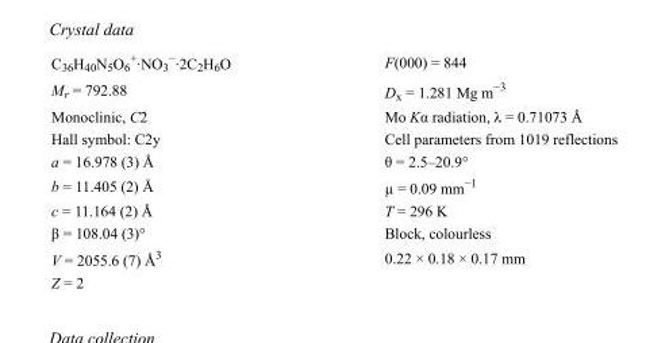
<table><tbody><tr><td>C<sub>36</sub>H<sub>40</sub>N<sub>5</sub>O<sub>6</sub> <sup>+</sup>·NO<sub>3</sub> <sup>−</sup>·2C<sub>2</sub>H<sub>6</sub>O</td><td>F(000) = 844</td></tr><tr><td>M<sub>r</sub> = 792.88</td><td>D<sub>x</sub> = 1.281 Mg m<sup>−3</sup></td></tr><tr><td>Monoclinic, C2</td><td>Mo Kα radiation, λ = 0.71073 Å</td></tr><tr><td>Hall symbol: C2y</td><td>Cell parameters from 1019 reflections</td></tr><tr><td>a = 16.978 (3) Å</td><td>θ = 2.5–20.9°</td></tr><tr><td>b = 11.405 (2) Å</td><td>µ = 0.09 mm<sup>−1</sup></td></tr><tr><td>c = 11.164 (2) Å</td><td>T = 296 K</td></tr><tr><td>β = 108.04 (3)°</td><td>Block, colourless</td></tr><tr><td>V = 2055.6 (7) Å<sup>3</sup></td><td>0.22 × 0.18 × 0.17 mm</td></tr><tr><td>Z = 2</td><td></td></tr></tbody></table>